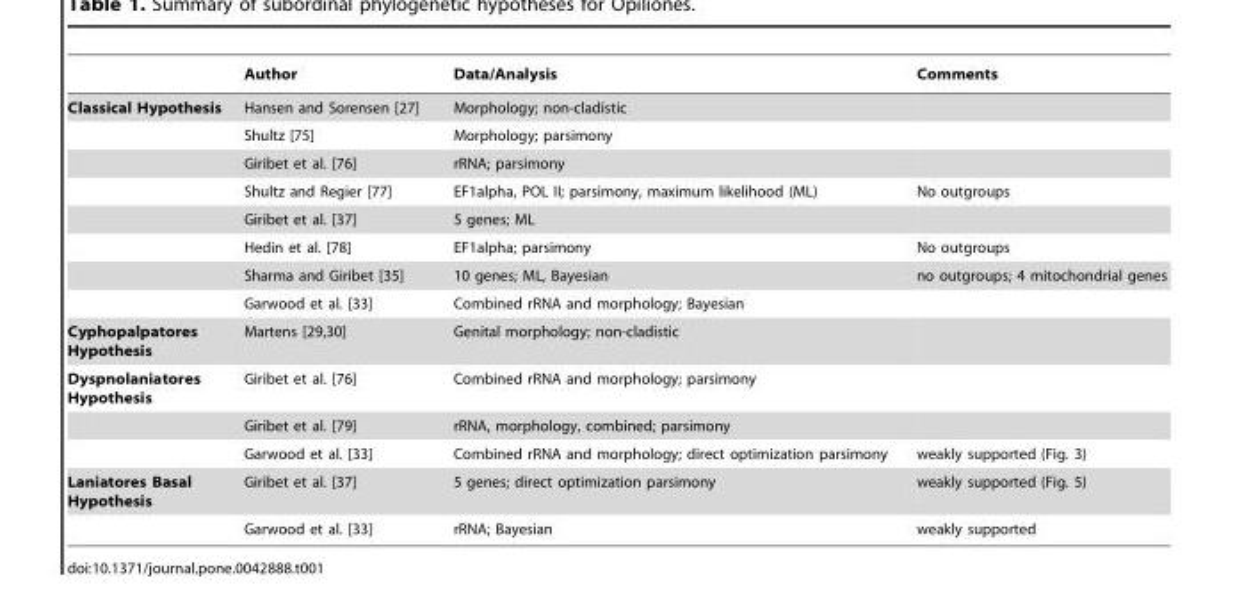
<table><thead><tr><td></td><td>Author</td><td>Data/Analysis</td><td>Comments</td></tr></thead><tbody><tr><td rowspan="8">Classical Hypothesis</td><td>Hansen and Sorensen [27]</td><td>Morphology; non-cladistic</td><td></td></tr><tr><td>Shultz [75]</td><td>Morphology; parsimony</td><td></td></tr><tr><td>Giribet et al. [76]</td><td>rRNA; parsimony</td><td></td></tr><tr><td>Shultz and Regier [77]</td><td>EF1alpha, POL II; parsimony, maximum likelihood (ML)</td><td>No outgroups</td></tr><tr><td>Giribet et al. [37]</td><td>5 genes; ML</td><td></td></tr><tr><td>Hedin et al. [78]</td><td>EF1alpha; parsimony</td><td>No outgroups</td></tr><tr><td>Sharma and Giribet [35]</td><td>10 genes; ML, Bayesian</td><td>no outgroups; 4 mitochondrial genes</td></tr><tr><td>Garwood et al. [33]</td><td>Combined rRNA and morphology; Bayesian</td><td></td></tr><tr><td>Cyphopalpatores Hypothesis</td><td>Martens [29,30]</td><td>Genital morphology; non-cladistic</td><td></td></tr><tr><td rowspan="3">Dyspnolaniatores Hypothesis</td><td>Giribet et al. [76]</td><td>Combined rRNA and morphology; parsimony</td><td></td></tr><tr><td>Giribet et al. [79]</td><td>rRNA, morphology, combined; parsimony</td><td></td></tr><tr><td>Garwood et al. [33]</td><td>Combined rRNA and morphology; direct optimization parsimony</td><td>weakly supported (Fig. 3)</td></tr><tr><td rowspan="2">Laniatores Basal Hypothesis</td><td>Giribet et al. [37]</td><td>5 genes; direct optimization parsimony</td><td>weakly supported (Fig. 5)</td></tr><tr><td>Garwood et al. [33]</td><td>rRNA; Bayesian</td><td>weakly supported</td></tr></tbody></table>